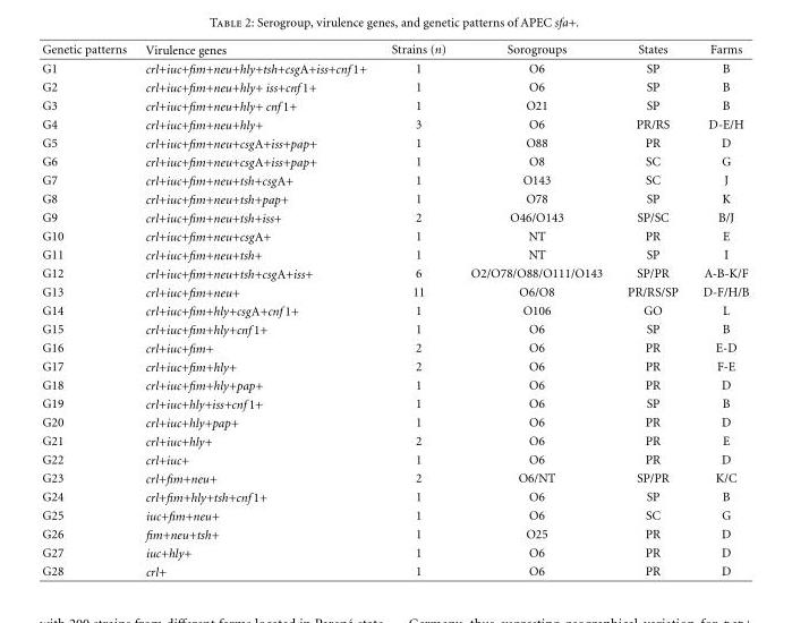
<table><thead><tr><td>Genetic patterns</td><td>Virulence genes</td><td>Strains (n)</td><td>Sorogroups</td><td>States</td><td>Farms</td></tr></thead><tbody><tr><td>G1</td><td>crl+iuc+fim+neu+hly+tsh+csgA+iss+cnf 1+</td><td>1</td><td>O6</td><td>SP</td><td>B</td></tr><tr><td>G2</td><td>crl+iuc+fim+neu+hly+ iss+cnf 1+</td><td>1</td><td>O6</td><td>SP</td><td>B</td></tr><tr><td>G3</td><td>crl+iuc+fim+neu+hly+ cnf 1+</td><td>1</td><td>O21</td><td>SP</td><td>B</td></tr><tr><td>G4</td><td>crl+iuc+fim+neu+hly+</td><td>3</td><td>O6</td><td>PR/RS</td><td>D-E/H</td></tr><tr><td>G5</td><td>crl+iuc+fim+neu+csgA+iss+pap+</td><td>1</td><td>O88</td><td>PR</td><td>D</td></tr><tr><td>G6</td><td>crl+iuc+fim+neu+csgA+iss+pap+</td><td>1</td><td>O8</td><td>SC</td><td>G</td></tr><tr><td>G7</td><td>crl+iuc+fim+neu+tsh+csgA+</td><td>1</td><td>O143</td><td>SC</td><td>J</td></tr><tr><td>G8</td><td>crl+iuc+fim+neu+tsh+pap+</td><td>1</td><td>O78</td><td>SP</td><td>K</td></tr><tr><td>G9</td><td>crl+iuc+fim+neu+tsh+iss+</td><td>2</td><td>O46/O143</td><td>SP/SC</td><td>B/J</td></tr><tr><td>G10</td><td>crl+iuc+fim+neu+csgA+</td><td>1</td><td>NT</td><td>PR</td><td>E</td></tr><tr><td>G11</td><td>crl+iuc+fim+neu+tsh+</td><td>1</td><td>NT</td><td>SP</td><td>I</td></tr><tr><td>G12</td><td>crl+iuc+fim+neu+tsh+csgA+iss+</td><td>6</td><td>O2/O78/O88/O111/O143</td><td>SP/PR</td><td>A-B-K/F</td></tr><tr><td>G13</td><td>crl+iuc+fim+neu+</td><td>11</td><td>O6/O8</td><td>PR/RS/SP</td><td>D-F/H/B</td></tr><tr><td>G14</td><td>crl+iuc+fim+hly+csgA+cnf 1+</td><td>1</td><td>O106</td><td>GO</td><td>L</td></tr><tr><td>G15</td><td>crl+iuc+fim+hly+cnf 1+</td><td>1</td><td>O6</td><td>SP</td><td>B</td></tr><tr><td>G16</td><td>crl+iuc+fim+</td><td>2</td><td>O6</td><td>PR</td><td>E-D</td></tr><tr><td>G17</td><td>crl+iuc+fim+hly+</td><td>2</td><td>O6</td><td>PR</td><td>F-E</td></tr><tr><td>G18</td><td>crl+iuc+fim+hly+pap+</td><td>1</td><td>O6</td><td>PR</td><td>D</td></tr><tr><td>G19</td><td>crl+iuc+hly+iss+cnf 1+</td><td>1</td><td>O6</td><td>SP</td><td>B</td></tr><tr><td>G20</td><td>crl+iuc+hly+pap+</td><td>1</td><td>O6</td><td>PR</td><td>D</td></tr><tr><td>G21</td><td>crl+iuc+hly+</td><td>2</td><td>O6</td><td>PR</td><td>E</td></tr><tr><td>G22</td><td>crl+iuc+</td><td>1</td><td>O6</td><td>PR</td><td>D</td></tr><tr><td>G23</td><td>crl+fim+neu+</td><td>2</td><td>O6/NT</td><td>SP/PR</td><td>K/C</td></tr><tr><td>G24</td><td>crl+fim+hly+tsh+cnf 1+</td><td>1</td><td>O6</td><td>SP</td><td>B</td></tr><tr><td>G25</td><td>iuc+fim+neu+</td><td>1</td><td>O6</td><td>SC</td><td>G</td></tr><tr><td>G26</td><td>fim+neu+tsh+</td><td>1</td><td>O25</td><td>PR</td><td>D</td></tr><tr><td>G27</td><td>iuc+hly+</td><td>1</td><td>O6</td><td>PR</td><td>D</td></tr><tr><td>G28</td><td>crl+</td><td>1</td><td>O6</td><td>PR</td><td>D</td></tr></tbody></table>